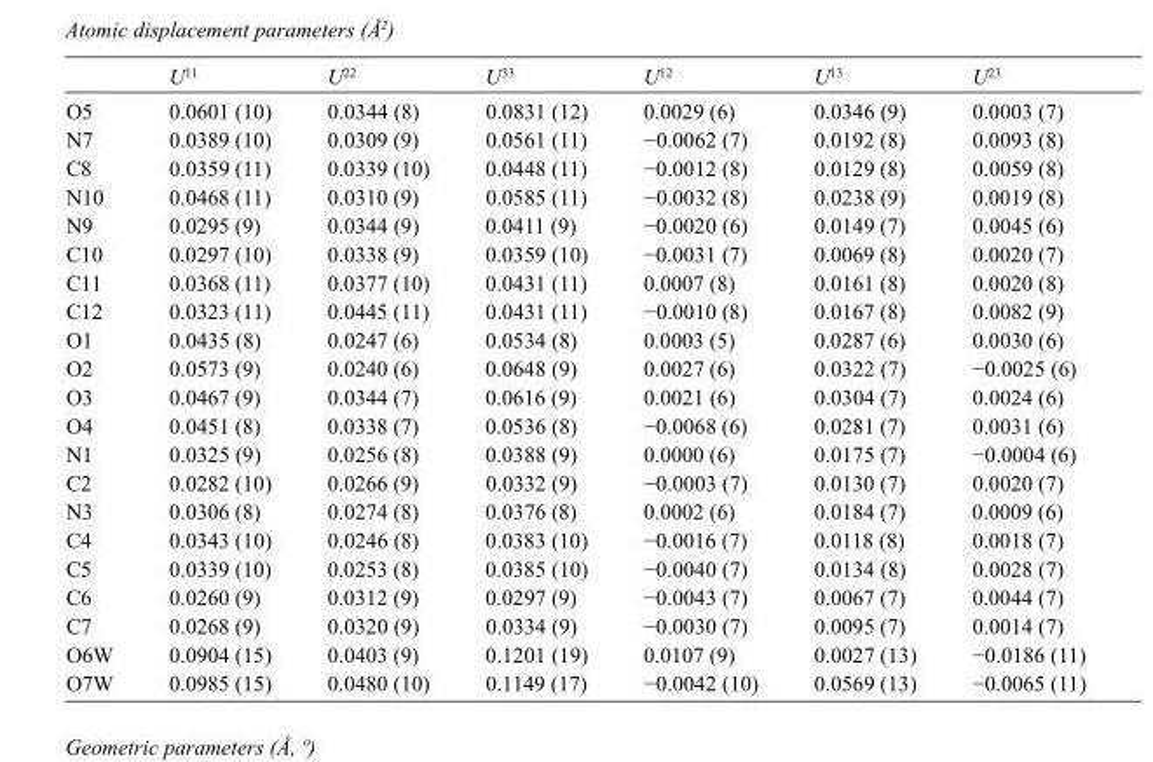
<table><thead><tr><td></td><td>U<sup>11</sup></td><td>U<sup>22</sup></td><td>U<sup>33</sup></td><td>U<sup>12</sup></td><td>U<sup>13</sup></td><td>U<sup>23</sup></td></tr></thead><tbody><tr><td>O5</td><td>0.0601 (10)</td><td>0.0344 (8)</td><td>0.0831 (12)</td><td>0.0029 (6)</td><td>0.0346 (9)</td><td>0.0003 (7)</td></tr><tr><td>N7</td><td>0.0389 (10)</td><td>0.0309 (9)</td><td>0.0561 (11)</td><td>−0.0062 (7)</td><td>0.0192 (8)</td><td>0.0093 (8)</td></tr><tr><td>C8</td><td>0.0359 (11)</td><td>0.0339 (10)</td><td>0.0448 (11)</td><td>−0.0012 (8)</td><td>0.0129 (8)</td><td>0.0059 (8)</td></tr><tr><td>N10</td><td>0.0468 (11)</td><td>0.0310 (9)</td><td>0.0585 (11)</td><td>−0.0032 (8)</td><td>0.0238 (9)</td><td>0.0019 (8)</td></tr><tr><td>N9</td><td>0.0295 (9)</td><td>0.0344 (9)</td><td>0.0411 (9)</td><td>−0.0020 (6)</td><td>0.0149 (7)</td><td>0.0045 (6)</td></tr><tr><td>C10</td><td>0.0297 (10)</td><td>0.0338 (9)</td><td>0.0359 (10)</td><td>−0.0031 (7)</td><td>0.0069 (8)</td><td>0.0020 (7)</td></tr><tr><td>C11</td><td>0.0368 (11)</td><td>0.0377 (10)</td><td>0.0431 (11)</td><td>0.0007 (8)</td><td>0.0161 (8)</td><td>0.0020 (8)</td></tr><tr><td>C12</td><td>0.0323 (11)</td><td>0.0445 (11)</td><td>0.0431 (11)</td><td>−0.0010 (8)</td><td>0.0167 (8)</td><td>0.0082 (9)</td></tr><tr><td>O1</td><td>0.0435 (8)</td><td>0.0247 (6)</td><td>0.0534 (8)</td><td>0.0003 (5)</td><td>0.0287 (6)</td><td>0.0030 (6)</td></tr><tr><td>O2</td><td>0.0573 (9)</td><td>0.0240 (6)</td><td>0.0648 (9)</td><td>0.0027 (6)</td><td>0.0322 (7)</td><td>−0.0025 (6)</td></tr><tr><td>O3</td><td>0.0467 (9)</td><td>0.0344 (7)</td><td>0.0616 (9)</td><td>0.0021 (6)</td><td>0.0304 (7)</td><td>0.0024 (6)</td></tr><tr><td>O4</td><td>0.0451 (8)</td><td>0.0338 (7)</td><td>0.0536 (8)</td><td>−0.0068 (6)</td><td>0.0281 (7)</td><td>0.0031 (6)</td></tr><tr><td>N1</td><td>0.0325 (9)</td><td>0.0256 (8)</td><td>0.0388 (9)</td><td>0.0000 (6)</td><td>0.0175 (7)</td><td>−0.0004 (6)</td></tr><tr><td>C2</td><td>0.0282 (10)</td><td>0.0266 (9)</td><td>0.0332 (9)</td><td>−0.0003 (7)</td><td>0.0130 (7)</td><td>0.0020 (7)</td></tr><tr><td>N3</td><td>0.0306 (8)</td><td>0.0274 (8)</td><td>0.0376 (8)</td><td>0.0002 (6)</td><td>0.0184 (7)</td><td>0.0009 (6)</td></tr><tr><td>C4</td><td>0.0343 (10)</td><td>0.0246 (8)</td><td>0.0383 (10)</td><td>−0.0016 (7)</td><td>0.0118 (8)</td><td>0.0018 (7)</td></tr><tr><td>C5</td><td>0.0339 (10)</td><td>0.0253 (8)</td><td>0.0385 (10)</td><td>−0.0040 (7)</td><td>0.0134 (8)</td><td>0.0028 (7)</td></tr><tr><td>C6</td><td>0.0260 (9)</td><td>0.0312 (9)</td><td>0.0297 (9)</td><td>−0.0043 (7)</td><td>0.0067 (7)</td><td>0.0044 (7)</td></tr><tr><td>C7</td><td>0.0268 (9)</td><td>0.0320 (9)</td><td>0.0334 (9)</td><td>−0.0030 (7)</td><td>0.0095 (7)</td><td>0.0014 (7)</td></tr><tr><td>O6W</td><td>0.0904 (15)</td><td>0.0403 (9)</td><td>0.1201 (19)</td><td>0.0107 (9)</td><td>0.0027 (13)</td><td>−0.0186 (11)</td></tr><tr><td>O7W</td><td>0.0985 (15)</td><td>0.0480 (10)</td><td>0.1149 (17)</td><td>−0.0042 (10)</td><td>0.0569 (13)</td><td>−0.0065 (11)</td></tr></tbody></table>